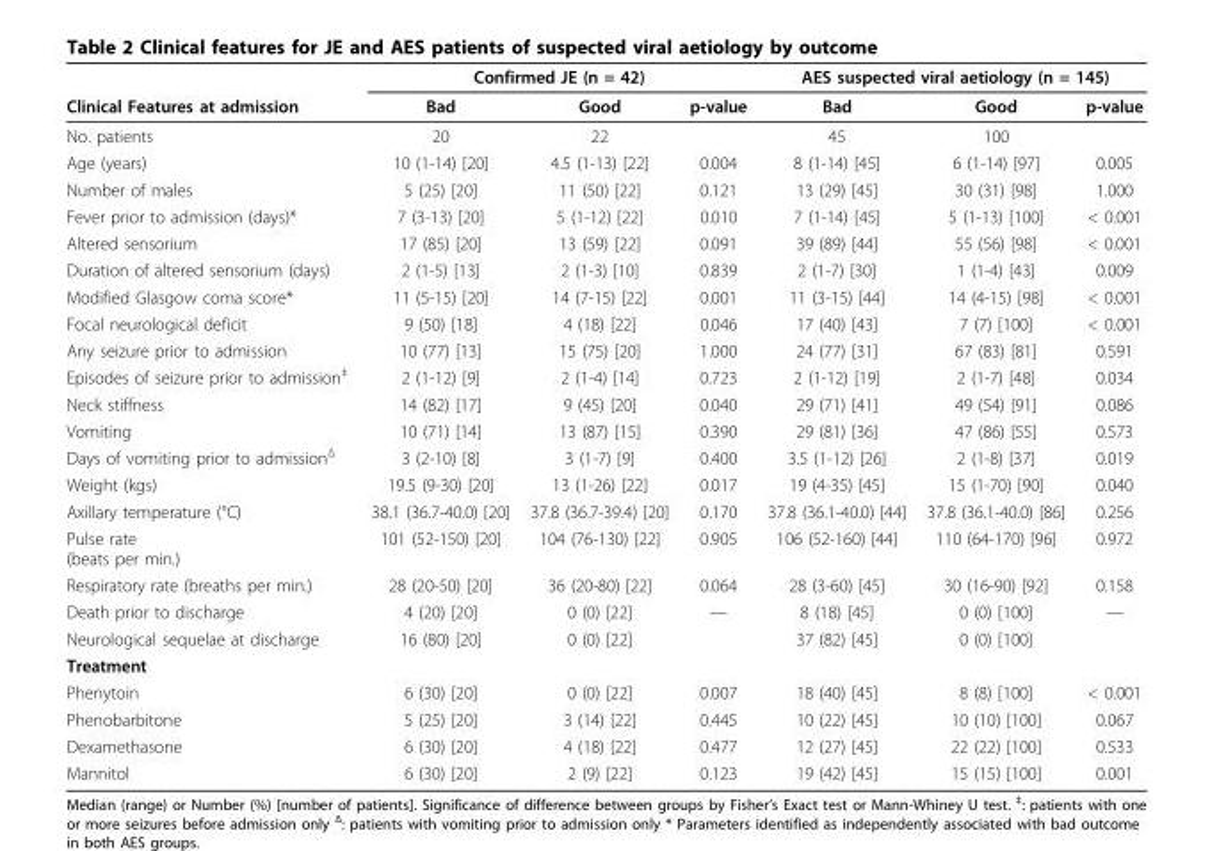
<table><thead><tr><td rowspan="2">Clinical Features at admission</td><td colspan="3">Confirmed JE (n = 42)</td><td colspan="3">AES suspected viral aetiology (n = 145)</td></tr><tr><td>Bad</td><td>Good</td><td>p-value</td><td>Bad</td><td>Good</td><td>p-value</td></tr></thead><tbody><tr><td>No. patients</td><td>20</td><td>22</td><td></td><td>45</td><td>100</td><td></td></tr><tr><td>Age (years)</td><td>10 (1-14) [20]</td><td>4.5 (1-13) [22]</td><td>0.004</td><td>8 (1-14) [45]</td><td>6 (1-14) [97]</td><td>0.005</td></tr><tr><td>Number of males</td><td>5 (25) [20]</td><td>11 (50) [22]</td><td>0.121</td><td>13 (29) [45]</td><td>30 (31) [98]</td><td>1.000</td></tr><tr><td>Fever prior to admission (days)*</td><td>7 (3-13) [20]</td><td>5 (1-12) [22]</td><td>0.010</td><td>7 (1-14) [45]</td><td>5 (1-13) [100]</td><td>&lt; 0.001</td></tr><tr><td>Altered sensorium</td><td>17 (85) [20]</td><td>13 (59) [22]</td><td>0.091</td><td>39 (89) [44]</td><td>55 (56) [98]</td><td>&lt; 0.001</td></tr><tr><td>Duration of altered sensorium (days)</td><td>2 (1-5) [13]</td><td>2 (1-3) [10]</td><td>0.839</td><td>2 (1-7) [30]</td><td>1 (1-4) [43]</td><td>0.009</td></tr><tr><td>Modified Glasgow coma score*</td><td>11 (5-15) [20]</td><td>14 (7-15) [22]</td><td>0.001</td><td>11 (3-15) [44]</td><td>14 (4-15) [98]</td><td>&lt; 0.001</td></tr><tr><td>Focal neurological deficit</td><td>9 (50) [18]</td><td>4 (18) [22]</td><td>0.046</td><td>17 (40) [43]</td><td>7 (7) [100]</td><td>&lt; 0.001</td></tr><tr><td>Any seizure prior to admission</td><td>10 (77) [13]</td><td>15 (75) [20]</td><td>1.000</td><td>24 (77) [31]</td><td>67 (83) [81]</td><td>0.591</td></tr><tr><td>Episodes of seizure prior to admission<sup>‡</sup></td><td>2 (1-12) [9]</td><td>2 (1-4) [14]</td><td>0.723</td><td>2 (1-12) [19]</td><td>2 (1-7) [48]</td><td>0.034</td></tr><tr><td>Neck stiffness</td><td>14 (82) [17]</td><td>9 (45) [20]</td><td>0.040</td><td>29 (71) [41]</td><td>49 (54) [91]</td><td>0.086</td></tr><tr><td>Vomiting</td><td>10 (71) [14]</td><td>13 (87) [15]</td><td>0.390</td><td>29 (81) [36]</td><td>47 (86) [55]</td><td>0.573</td></tr><tr><td>Days of vomiting prior to admissionΔ</td><td>3 (2-10) [8]</td><td>3 (1-7) [9]</td><td>0.400</td><td>3.5 (1-12) [26]</td><td>2 (1-8) [37]</td><td>0.019</td></tr><tr><td>Weight (kgs)</td><td>19.5 (9-30) [20]</td><td>13 (1-26) [22]</td><td>0.017</td><td>19 (4-35) [45]</td><td>15 (1-70) [90]</td><td>0.040</td></tr><tr><td>Axillary temperature (°C)</td><td>38.1 (36.7-40.0) [20]</td><td>37.8 (36.7-39.4) [20]</td><td>0.170</td><td>37.8 (36.1-40.0) [44]</td><td>37.8 (36.1-40.0) [86]</td><td>0.256</td></tr><tr><td>Pulse rate (beats per min.)</td><td>101 (52-150) [20]</td><td>104 (76-130) [22]</td><td>0.905</td><td>106 (52-160) [44]</td><td>110 (64-170) [96]</td><td>0.972</td></tr><tr><td>Respiratory rate (breaths per min.)</td><td>28 (20-50) [20]</td><td>36 (20-80) [22]</td><td>0.064</td><td>28 (3-60) [45]</td><td>30 (16-90) [92]</td><td>0.158</td></tr><tr><td>Death prior to discharge</td><td>4 (20) [20]</td><td>0 (0) [22]</td><td>—</td><td>8 (18) [45]</td><td>0 (0) [100]</td><td>—</td></tr><tr><td>Neurological sequelae at discharge</td><td>16 (80) [20]</td><td>0 (0) [22]</td><td></td><td>37 (82) [45]</td><td>0 (0) [100]</td><td></td></tr><tr><td colspan="7">Treatment</td></tr><tr><td>Phenytoin</td><td>6 (30) [20]</td><td>0 (0) [22]</td><td>0.007</td><td>18 (40) [45]</td><td>8 (8) [100]</td><td>&lt; 0.001</td></tr><tr><td>Phenobarbitone</td><td>5 (25) [20]</td><td>3 (14) [22]</td><td>0.445</td><td>10 (22) [45]</td><td>10 (10) [100]</td><td>0.067</td></tr><tr><td>Dexamethasone</td><td>6 (30) [20]</td><td>4 (18) [22]</td><td>0.477</td><td>12 (27) [45]</td><td>22 (22) [100]</td><td>0.533</td></tr><tr><td>Mannitol</td><td>6 (30) [20]</td><td>2 (9) [22]</td><td>0.123</td><td>19 (42) [45]</td><td>15 (15) [100]</td><td>0.001</td></tr></tbody></table>